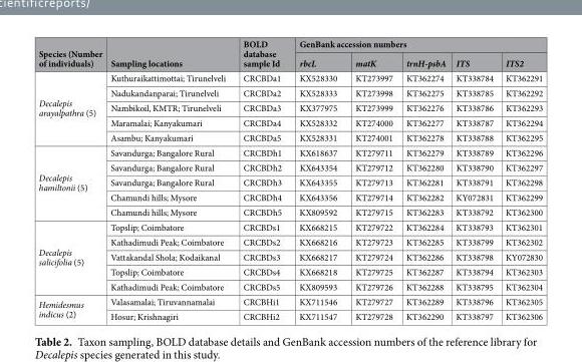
<table><thead><tr><td rowspan="2">Species (Number of individuals)</td><td rowspan="2">Sampling locations</td><td rowspan="2">BOLD database sample Id</td><td colspan="5">GenBank accession numbers</td></tr><tr><td>rbcL</td><td>matK</td><td>trnH-psbA</td><td>ITS</td><td>ITS2</td></tr></thead><tbody><tr><td rowspan="5">Decalepis arayalpathra (5)</td><td>Kuthuraikattimottai; Tirunelveli</td><td>CRCBDa1</td><td>KX528330</td><td>KT273997</td><td>KT362274</td><td>KT338784</td><td>KT362291</td></tr><tr><td>Nadukandanparai; Tirunelveli</td><td>CRCBDa2</td><td>KX528333</td><td>KT273998</td><td>KT362275</td><td>KT338785</td><td>KT362292</td></tr><tr><td>Nambikoil, KMTR; Tirunelveli</td><td>CRCBDa3</td><td>KX377975</td><td>KT273999</td><td>KT362276</td><td>KT338786</td><td>KT362293</td></tr><tr><td>Maramalai; Kanyakumari</td><td>CRCBDa4</td><td>KX528332</td><td>KT274000</td><td>KT362277</td><td>KT338787</td><td>KT362294</td></tr><tr><td>Asambu; Kanyakumari</td><td>CRCBDa5</td><td>KX528331</td><td>KT274001</td><td>KT362278</td><td>KT338788</td><td>KT362295</td></tr><tr><td rowspan="5">Decalepis hamiltonii (5)</td><td>Savandurga; Bangalore Rural</td><td>CRCBDh1</td><td>KX618637</td><td>KT279711</td><td>KT362279</td><td>KT338789</td><td>KT362296</td></tr><tr><td>Savandurga; Bangalore Rural</td><td>CRCBDh2</td><td>KX643354</td><td>KT279712</td><td>KT362280</td><td>KT338790</td><td>KT362297</td></tr><tr><td>Savandurga; Bangalore Rural</td><td>CRCBDh3</td><td>KX643355</td><td>KT279713</td><td>KT362281</td><td>KT338791</td><td>KT362298</td></tr><tr><td>Chamundi hills; Mysore</td><td>CRCBDh4</td><td>KX643356</td><td>KT279714</td><td>KT362282</td><td>KY072831</td><td>KT362299</td></tr><tr><td>Chamundi hills; Mysore</td><td>CRCBDh5</td><td>KX809592</td><td>KT279715</td><td>KT362283</td><td>KT338792</td><td>KT362300</td></tr><tr><td rowspan="5">Decalepis salicifolia (5)</td><td>Topslip; Coimbatore</td><td>CRCBDs1</td><td>KX668215</td><td>KT279722</td><td>KT362284</td><td>KT338793</td><td>KT362301</td></tr><tr><td>Kathadimudi Peak; Coimbatore</td><td>CRCBDs2</td><td>KX668216</td><td>KT279723</td><td>KT362285</td><td>KT338799</td><td>KT362302</td></tr><tr><td>Vattakandal Shola; Kodaikanal</td><td>CRCBDs3</td><td>KX668217</td><td>KT279724</td><td>KT362286</td><td>KT338798</td><td>KY072830</td></tr><tr><td>Topslip; Coimbatore</td><td>CRCBDs4</td><td>KX668218</td><td>KT279725</td><td>KT362287</td><td>KT338794</td><td>KT362303</td></tr><tr><td>Kathadimudi Peak; Coimbatore</td><td>CRCBDs5</td><td>KX809593</td><td>KT279726</td><td>KT362288</td><td>KT338795</td><td>KT362304</td></tr><tr><td rowspan="2">Hemidesmus indicus (2)</td><td>Valasamalai; Tiruvannamalai</td><td>CRCBHi1</td><td>KX711546</td><td>KT279727</td><td>KT362289</td><td>KT338796</td><td>KT362305</td></tr><tr><td>Hosur; Krishnagiri</td><td>CRCBHi2</td><td>KX711547</td><td>KT279728</td><td>KT362290</td><td>KT338797</td><td>KT362306</td></tr></tbody></table>